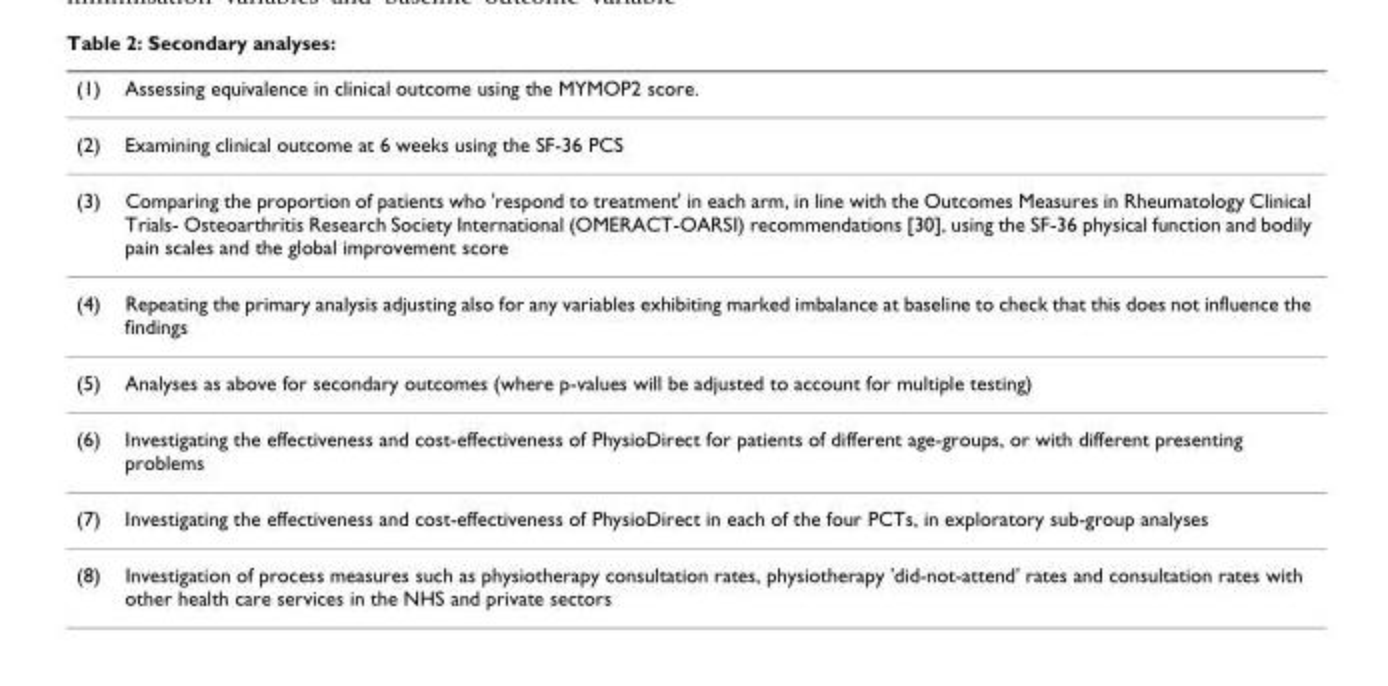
<table><thead><tr><td>(1)</td><td>Assessing equivalence in clinical outcome using the MYMOP2 score.</td></tr></thead><tbody><tr><td>(2)</td><td>Examining clinical outcome at 6 weeks using the SF-36 PCS</td></tr><tr><td>(3)</td><td>Comparing the proportion of patients who &#x27;respond to treatment&#x27; in each arm, in line with the Outcomes Measures in Rheumatology Clinical Trials- Osteoarthritis Research Society International (OMERACT-OARSI) recommendations [30], using the SF-36 physical function and bodily pain scales and the global improvement score</td></tr><tr><td>(4)</td><td>Repeating the primary analysis adjusting also for any variables exhibiting marked imbalance at baseline to check that this does not influence the findings</td></tr><tr><td>(5)</td><td>Analyses as above for secondary outcomes (where p-values will be adjusted to account for multiple testing)</td></tr><tr><td>(6)</td><td>Investigating the effectiveness and cost-effectiveness of PhysioDirect for patients of different age-groups, or with different presenting problems</td></tr><tr><td>(7)</td><td>Investigating the effectiveness and cost-effectiveness of PhysioDirect in each of the four PCTs, in exploratory sub-group analyses</td></tr><tr><td>(8)</td><td>Investigation of process measures such as physiotherapy consultation rates, physiotherapy &#x27;did-not-attend&#x27; rates and consultation rates with other health care services in the NHS and private sectors</td></tr></tbody></table>